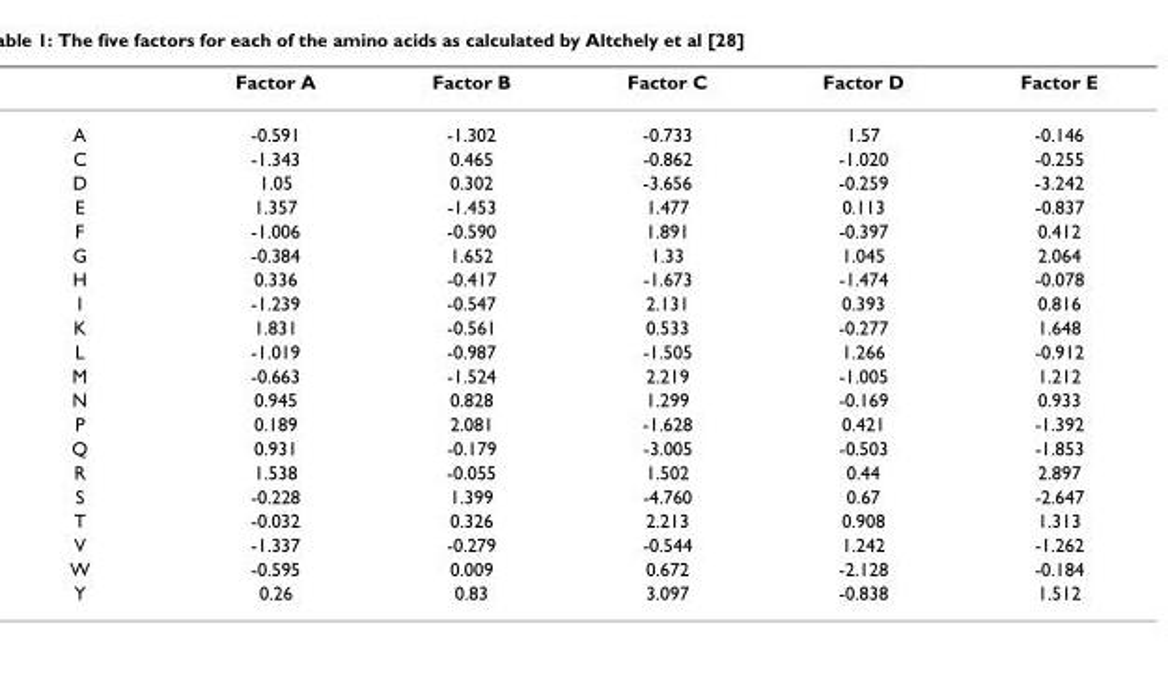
<table><thead><tr><td></td><td>Factor A</td><td>Factor B</td><td>Factor C</td><td>Factor D</td><td>Factor E</td></tr></thead><tbody><tr><td>A</td><td>-0.591</td><td>-1.302</td><td>-0.733</td><td>1.57</td><td>-0.146</td></tr><tr><td>C</td><td>-1.343</td><td>0.465</td><td>-0.862</td><td>-1.020</td><td>-0.255</td></tr><tr><td>D</td><td>1.05</td><td>0.302</td><td>-3.656</td><td>-0.259</td><td>-3.242</td></tr><tr><td>E</td><td>1.357</td><td>-1.453</td><td>1.477</td><td>0.113</td><td>-0.837</td></tr><tr><td>F</td><td>-1.006</td><td>-0.590</td><td>1.891</td><td>-0.397</td><td>0.412</td></tr><tr><td>G</td><td>-0.384</td><td>1.652</td><td>1.33</td><td>1.045</td><td>2.064</td></tr><tr><td>H</td><td>0.336</td><td>-0.417</td><td>-1.673</td><td>-1.474</td><td>-0.078</td></tr><tr><td>I</td><td>-1.239</td><td>-0.547</td><td>2.131</td><td>0.393</td><td>0.816</td></tr><tr><td>K</td><td>1.831</td><td>-0.561</td><td>0.533</td><td>-0.277</td><td>1.648</td></tr><tr><td>L</td><td>-1.019</td><td>-0.987</td><td>-1.505</td><td>1.266</td><td>-0.912</td></tr><tr><td>M</td><td>-0.663</td><td>-1.524</td><td>2.219</td><td>-1.005</td><td>1.212</td></tr><tr><td>N</td><td>0.945</td><td>0.828</td><td>1.299</td><td>-0.169</td><td>0.933</td></tr><tr><td>P</td><td>0.189</td><td>2.081</td><td>-1.628</td><td>0.421</td><td>-1.392</td></tr><tr><td>Q</td><td>0.931</td><td>-0.179</td><td>-3.005</td><td>-0.503</td><td>-1.853</td></tr><tr><td>R</td><td>1.538</td><td>-0.055</td><td>1.502</td><td>0.44</td><td>2.897</td></tr><tr><td>S</td><td>-0.228</td><td>1.399</td><td>-4.760</td><td>0.67</td><td>-2.647</td></tr><tr><td>T</td><td>-0.032</td><td>0.326</td><td>2.213</td><td>0.908</td><td>1.313</td></tr><tr><td>V</td><td>-1.337</td><td>-0.279</td><td>-0.544</td><td>1.242</td><td>-1.262</td></tr><tr><td>W</td><td>-0.595</td><td>0.009</td><td>0.672</td><td>-2.128</td><td>-0.184</td></tr><tr><td>Y</td><td>0.26</td><td>0.83</td><td>3.097</td><td>-0.838</td><td>1.512</td></tr></tbody></table>